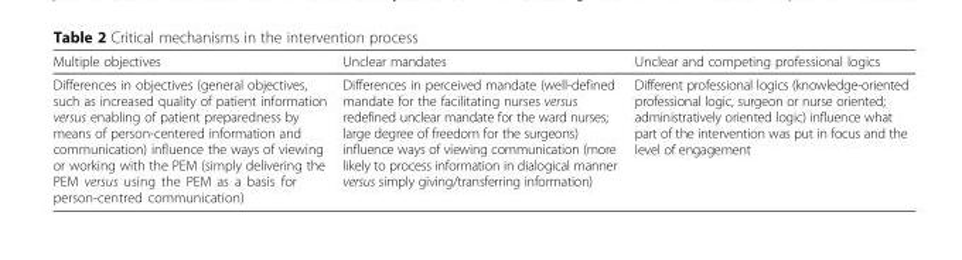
<table><thead><tr><td>Multiple objectives</td><td>Unclear mandates</td><td>Unclear and competing professional logics</td></tr></thead><tbody><tr><td>Differences in objectives (general objectives, such as increased quality of patient information versus enabling of patient preparedness by means of person-centered information and communication) influence the ways of viewing or working with the PEM (simply delivering the PEM versus using the PEM as a basis for person-centred communication)</td><td>Differences in perceived mandate (well-defined mandate for the facilitating nurses versus redefined unclear mandate for the ward nurses; large degree of freedom for the surgeons) influence ways of viewing communication (more likely to process information in dialogical manner versus simply giving/transferring information)</td><td>Different professional logics (knowledge-oriented professional logic, surgeon or nurse oriented; administratively oriented logic) influence what part of the intervention was put in focus and the level of engagement</td></tr></tbody></table>